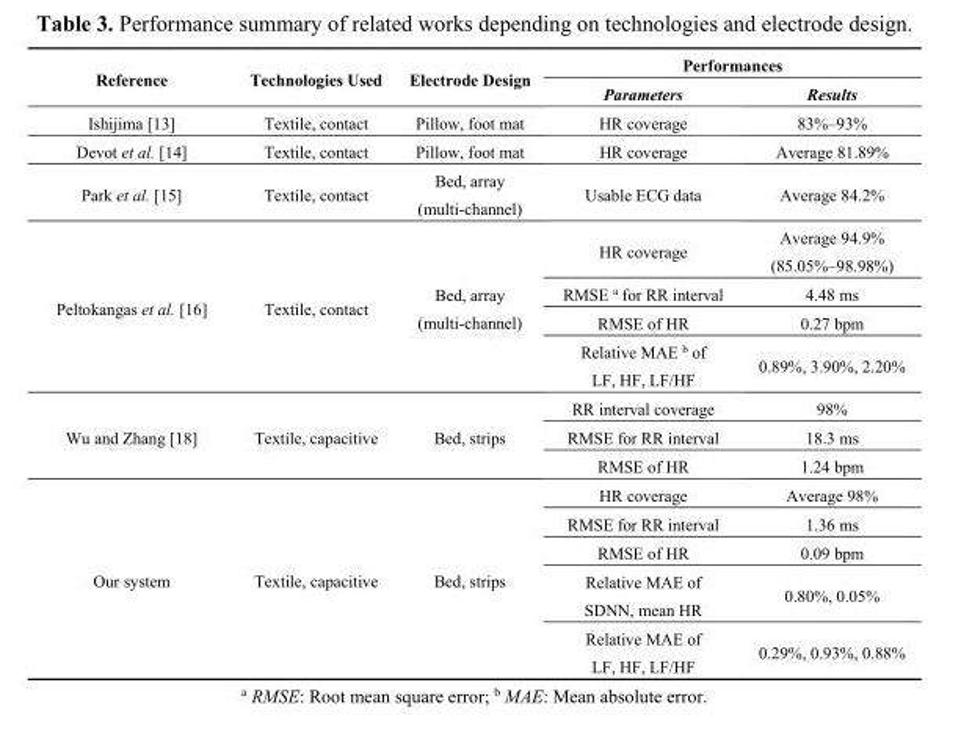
<table><thead><tr><td rowspan="2">Reference</td><td rowspan="2">Technologies Used</td><td rowspan="2">Electrode Design</td><td colspan="2">Performances</td></tr><tr><td>Parameters</td><td>Results</td></tr></thead><tbody><tr><td>Ishijima [13]</td><td>Textile, contact</td><td>Pillow, foot mat</td><td>HR coverage</td><td>83%–93%</td></tr><tr><td>Devot et al. [14]</td><td>Textile, contact</td><td>Pillow, foot mat</td><td>HR coverage</td><td>Average 81.89%</td></tr><tr><td>Park et al. [15]</td><td>Textile, contact</td><td>Bed, array (multi-channel)</td><td>Usable ECG data</td><td>Average 84.2%</td></tr><tr><td rowspan="4">Peltokangas et al. [16]</td><td rowspan="4">Textile, contact</td><td rowspan="4">Bed, array (multi-channel)</td><td>HR coverage</td><td>Average 94.9% (85.05%–98.98%)</td></tr><tr><td>RMSE <sup>a</sup> for RR interval</td><td>4.48 ms</td></tr><tr><td>RMSE of HR</td><td>0.27 bpm</td></tr><tr><td>Relative MAE <sup>b</sup> of LF, HF, LF/HF</td><td>0.89%, 3.90%, 2.20%</td></tr><tr><td rowspan="3">Wu and Zhang [18]</td><td rowspan="3">Textile, capacitive</td><td rowspan="3">Bed, strips</td><td>RR interval coverage</td><td>98%</td></tr><tr><td>RMSE for RR interval</td><td>18.3 ms</td></tr><tr><td>RMSE of HR</td><td>1.24 bpm</td></tr><tr><td rowspan="5">Our system</td><td rowspan="5">Textile, capacitive</td><td rowspan="5">Bed, strips</td><td>HR coverage</td><td>Average 98%</td></tr><tr><td>RMSE for RR interval</td><td>1.36 ms</td></tr><tr><td>RMSE of HR</td><td>0.09 bpm</td></tr><tr><td>Relative MAE of SDNN, mean HR</td><td>0.80%, 0.05%</td></tr><tr><td>Relative MAE of LF, HF, LF/HF</td><td>0.29%, 0.93%, 0.88%</td></tr></tbody></table>